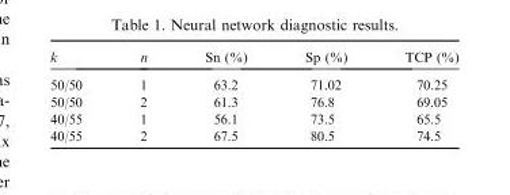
<table><thead><tr><td>k</td><td>n</td><td>Sn (%)</td><td>Sp (%)</td><td>TCP (%)</td></tr></thead><tbody><tr><td>50/50</td><td>1</td><td>63.2</td><td>71.02</td><td>70.25</td></tr><tr><td>50/50</td><td>2</td><td>61.3</td><td>76.8</td><td>69.05</td></tr><tr><td>40/55</td><td>1</td><td>56.1</td><td>73.5</td><td>65.5</td></tr><tr><td>40/55</td><td>2</td><td>67.5</td><td>80.5</td><td>74.5</td></tr></tbody></table>